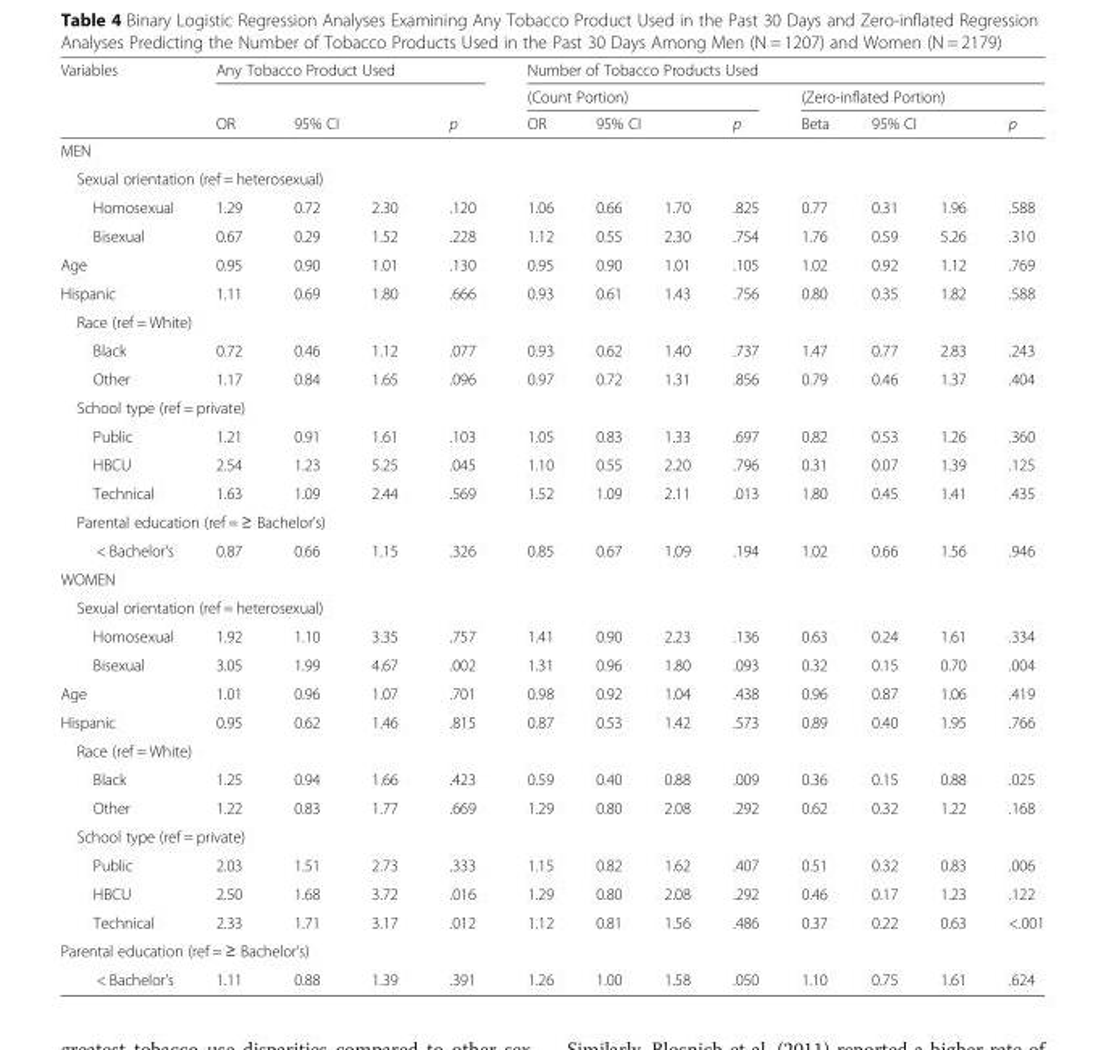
<table><thead><tr><td rowspan="3">Variables</td><td colspan="4">Any Tobacco Product Used</td><td colspan="8">Number of Tobacco Products Used</td></tr><tr><td rowspan="2">OR</td><td></td><td></td><td rowspan="2">p</td><td colspan="4">(Count Portion)</td><td colspan="4">(Zero-inflated Portion)</td></tr><tr><td colspan="2">95% CI</td><td>OR</td><td colspan="2">95% CI</td><td>p</td><td>Beta</td><td colspan="2">95% CI</td><td>p</td></tr><tr><td rowspan="2" colspan="13">MEN Sexual orientation (ref = heterosexual)</td></tr><tr></tr><tr><td>Homosexual</td><td>1.29</td><td>0.72</td><td>2.30</td><td>.120</td><td>1.06</td><td>0.66</td><td>1.70</td><td>.825</td><td>0.77</td><td>0.31</td><td>1.96</td><td>.588</td></tr></thead><tbody><tr><td>Bisexual</td><td>0.67</td><td>0.29</td><td>1.52</td><td>.228</td><td>1.12</td><td>0.55</td><td>2.30</td><td>.754</td><td>1.76</td><td>0.59</td><td>5.26</td><td>.310</td></tr><tr><td>Age</td><td>0.95</td><td>0.90</td><td>1.01</td><td>.130</td><td>0.95</td><td>0.90</td><td>1.01</td><td>.105</td><td>1.02</td><td>0.92</td><td>1.12</td><td>.769</td></tr><tr><td>Hispanic</td><td>1.11</td><td>0.69</td><td>1.80</td><td>.666</td><td>0.93</td><td>0.61</td><td>1.43</td><td>.756</td><td>0.80</td><td>0.35</td><td>1.82</td><td>.588</td></tr><tr><td colspan="13">Race (ref = White)</td></tr><tr><td>Black</td><td>0.72</td><td>0.46</td><td>1.12</td><td>.077</td><td>0.93</td><td>0.62</td><td>1.40</td><td>.737</td><td>1.47</td><td>0.77</td><td>2.83</td><td>.243</td></tr><tr><td>Other</td><td>1.17</td><td>0.84</td><td>1.65</td><td>.096</td><td>0.97</td><td>0.72</td><td>1.31</td><td>.856</td><td>0.79</td><td>0.46</td><td>1.37</td><td>.404</td></tr><tr><td colspan="13">School type (ref = private)</td></tr><tr><td>Public</td><td>1.21</td><td>0.91</td><td>1.61</td><td>.103</td><td>1.05</td><td>0.83</td><td>1.33</td><td>.697</td><td>0.82</td><td>0.53</td><td>1.26</td><td>.360</td></tr><tr><td>HBCU</td><td>2.54</td><td>1.23</td><td>5.25</td><td>.045</td><td>1.10</td><td>0.55</td><td>2.20</td><td>.796</td><td>0.31</td><td>0.07</td><td>1.39</td><td>.125</td></tr><tr><td>Technical</td><td>1.63</td><td>1.09</td><td>2.44</td><td>.569</td><td>1.52</td><td>1.09</td><td>2.11</td><td>.013</td><td>1.80</td><td>0.45</td><td>1.41</td><td>.435</td></tr><tr><td colspan="13">Parental education (ref = ≥ Bachelor’s)</td></tr><tr><td>&lt; Bachelor’s</td><td>0.87</td><td>0.66</td><td>1.15</td><td>.326</td><td>0.85</td><td>0.67</td><td>1.09</td><td>.194</td><td>1.02</td><td>0.66</td><td>1.56</td><td>.946</td></tr><tr><td colspan="13">WOMEN</td></tr><tr><td colspan="13">Sexual orientation (ref = heterosexual)</td></tr><tr><td>Homosexual</td><td>1.92</td><td>1.10</td><td>3.35</td><td>.757</td><td>1.41</td><td>0.90</td><td>2.23</td><td>.136</td><td>0.63</td><td>0.24</td><td>1.61</td><td>.334</td></tr><tr><td>Bisexual</td><td>3.05</td><td>1.99</td><td>4.67</td><td>.002</td><td>1.31</td><td>0.96</td><td>1.80</td><td>.093</td><td>0.32</td><td>0.15</td><td>0.70</td><td>.004</td></tr><tr><td>Age</td><td>1.01</td><td>0.96</td><td>1.07</td><td>.701</td><td>0.98</td><td>0.92</td><td>1.04</td><td>.438</td><td>0.96</td><td>0.87</td><td>1.06</td><td>.419</td></tr><tr><td>Hispanic</td><td>0.95</td><td>0.62</td><td>1.46</td><td>.815</td><td>0.87</td><td>0.53</td><td>1.42</td><td>.573</td><td>0.89</td><td>0.40</td><td>1.95</td><td>.766</td></tr><tr><td colspan="13">Race (ref = White)</td></tr><tr><td>Black</td><td>1.25</td><td>0.94</td><td>1.66</td><td>.423</td><td>0.59</td><td>0.40</td><td>0.88</td><td>.009</td><td>0.36</td><td>0.15</td><td>0.88</td><td>.025</td></tr><tr><td>Other</td><td>1.22</td><td>0.83</td><td>1.77</td><td>.669</td><td>1.29</td><td>0.80</td><td>2.08</td><td>.292</td><td>0.62</td><td>0.32</td><td>1.22</td><td>.168</td></tr><tr><td colspan="13">School type (ref = private)</td></tr><tr><td>Public</td><td>2.03</td><td>1.51</td><td>2.73</td><td>.333</td><td>1.15</td><td>0.82</td><td>1.62</td><td>.407</td><td>0.51</td><td>0.32</td><td>0.83</td><td>.006</td></tr><tr><td>HBCU</td><td>2.50</td><td>1.68</td><td>3.72</td><td>.016</td><td>1.29</td><td>0.80</td><td>2.08</td><td>.292</td><td>0.46</td><td>0.17</td><td>1.23</td><td>.122</td></tr><tr><td>Technical</td><td>2.33</td><td>1.71</td><td>3.17</td><td>.012</td><td>1.12</td><td>0.81</td><td>1.56</td><td>.486</td><td>0.37</td><td>0.22</td><td>0.63</td><td>&lt;.001</td></tr><tr><td colspan="13">Parental education (ref = ≥ Bachelor’s)</td></tr><tr><td>&lt; Bachelor’s</td><td>1.11</td><td>0.88</td><td>1.39</td><td>.391</td><td>1.26</td><td>1.00</td><td>1.58</td><td>.050</td><td>1.10</td><td>0.75</td><td>1.61</td><td>.624</td></tr></tbody></table>